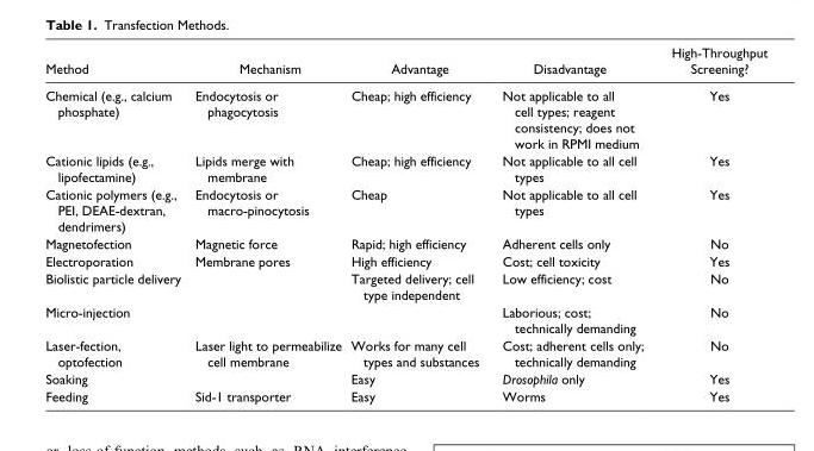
<table><thead><tr><td>Method</td><td>Mechanism</td><td>Advantage</td><td>Disadvantage</td><td>High-Throughput Screening?</td></tr></thead><tbody><tr><td>Chemical (e.g., calcium phosphate)</td><td>Endocytosis or phagocytosis</td><td>Cheap; high efficiency</td><td>Not applicable to all cell types; reagent consistency; does not work in RPMI medium</td><td>Yes</td></tr><tr><td>Cationic lipids (e.g., lipofectamine)</td><td>Lipids merge with membrane</td><td>Cheap; high efficiency</td><td>Not applicable to all cell types</td><td>Yes</td></tr><tr><td>Cationic polymers (e.g., PEI, DEAE-dextran, dendrimers)</td><td>Endocytosis or macro-pinocytosis</td><td>Cheap</td><td>Not applicable to all cell types</td><td>Yes</td></tr><tr><td>Magnetofection</td><td>Magnetic force</td><td>Rapid; high efficiency</td><td>Adherent cells only</td><td>No</td></tr><tr><td>Electroporation</td><td>Membrane pores</td><td>High efficiency</td><td>Cost; cell toxicity</td><td>Yes</td></tr><tr><td>Biolistic particle delivery</td><td></td><td>Targeted delivery; cell type independent</td><td>Low efficiency; cost</td><td>No</td></tr><tr><td>Micro-injection</td><td></td><td></td><td>Laborious; cost; technically demanding</td><td>No</td></tr><tr><td>Laser-fection, optofection</td><td>Laser light to permeabilize cell membrane</td><td>Works for many cell types and substances</td><td>Cost; adherent cells only; technically demanding</td><td>No</td></tr><tr><td>Soaking</td><td></td><td>Easy</td><td>Drosophila only</td><td>Yes</td></tr><tr><td>Feeding</td><td>Sid-1 transporter</td><td>Easy</td><td>Worms</td><td>Yes</td></tr></tbody></table>